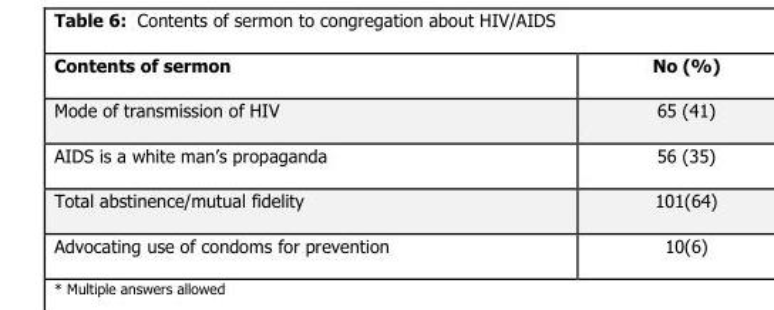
<table><thead><tr><td>Contents of sermon</td><td>No (%)</td></tr></thead><tbody><tr><td>Mode of transmission of HIV</td><td>65 (41)</td></tr><tr><td>AIDS is a white man’s propaganda</td><td>56 (35)</td></tr><tr><td>Total abstinence/mutual fidelity</td><td>101(64)</td></tr><tr><td>Advocating use of condoms for prevention</td><td>10(6)</td></tr></tbody></table>